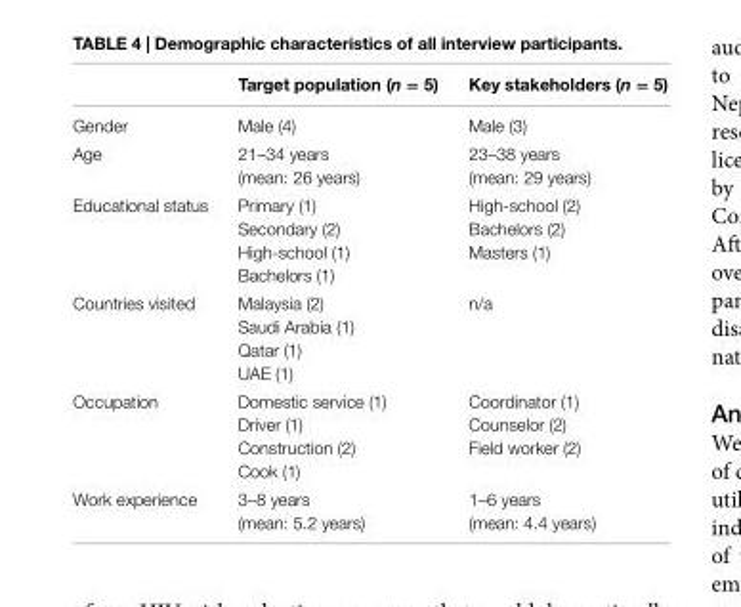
<table><thead><tr><td></td><td>Target population (n = 5)</td><td>Key stakeholders (n = 5)</td></tr></thead><tbody><tr><td>Gender</td><td>Male (4)</td><td>Male (3)</td></tr><tr><td>Age</td><td>21–34 years (mean: 26 years)</td><td>23–38 years (mean: 29 years)</td></tr><tr><td rowspan="4">Educational status</td><td>Primary (1)</td><td>High-school (2)</td></tr><tr><td>Secondary (2)</td><td>Bachelors (2)</td></tr><tr><td>High-school (1)</td><td>Masters (1)</td></tr><tr><td>Bachelors (1)</td><td></td></tr><tr><td rowspan="4">Countries visited</td><td>Malaysia (2)</td><td rowspan="4">n/a</td></tr><tr><td>Saudi Arabia (1)</td></tr><tr><td>Qatar (1)</td></tr><tr><td>UAE (1)</td></tr><tr><td rowspan="4">Occupation</td><td>Domestic service (1)</td><td>Coordinator (1)</td></tr><tr><td>Driver (1)</td><td>Counselor (2)</td></tr><tr><td>Construction (2)</td><td>Field worker (2)</td></tr><tr><td>Cook (1)</td><td></td></tr><tr><td>Work experience</td><td>3–8 years (mean: 5.2 years)</td><td>1–6 years (mean: 4.4 years)</td></tr></tbody></table>